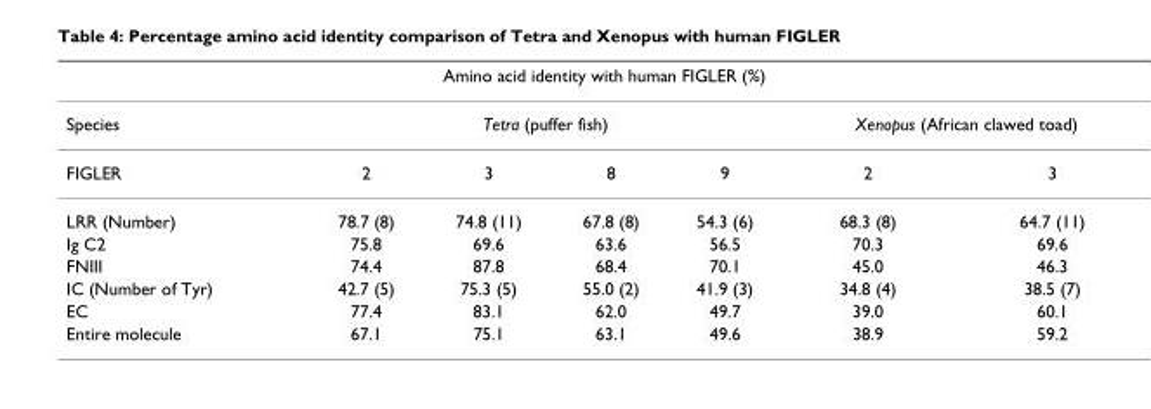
<table><thead><tr><td colspan="7">Amino acid identity with human FIGLER (%)</td></tr><tr><td rowspan="2">Species FIGLER</td><td colspan="4">Tetra (puffer fish)</td><td colspan="2">Xenopus (African clawed toad)</td></tr><tr><td>2</td><td>3</td><td>8</td><td>9</td><td>2</td><td>3</td></tr></thead><tbody><tr><td>LRR (Number)</td><td>78.7 (8)</td><td>74.8 (11)</td><td>67.8 (8)</td><td>54.3 (6)</td><td>68.3 (8)</td><td>64.7 (11)</td></tr><tr><td>Ig C2</td><td>75.8</td><td>69.6</td><td>63.6</td><td>56.5</td><td>70.3</td><td>69.6</td></tr><tr><td>FNIII</td><td>74.4</td><td>87.8</td><td>68.4</td><td>70.1</td><td>45.0</td><td>46.3</td></tr><tr><td>IC (Number of Tyr)</td><td>42.7 (5)</td><td>75.3 (5)</td><td>55.0 (2)</td><td>41.9 (3)</td><td>34.8 (4)</td><td>38.5 (7)</td></tr><tr><td>EC</td><td>77.4</td><td>83.1</td><td>62.0</td><td>49.7</td><td>39.0</td><td>60.1</td></tr><tr><td>Entire molecule</td><td>67.1</td><td>75.1</td><td>63.1</td><td>49.6</td><td>38.9</td><td>59.2</td></tr></tbody></table>